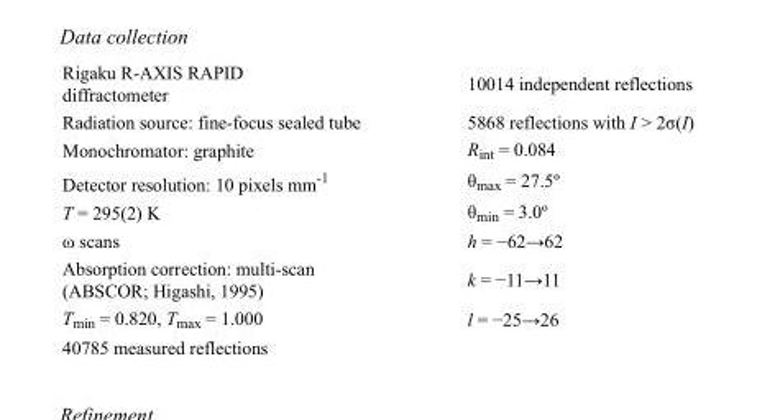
<table><tbody><tr><td>Rigaku R-AXIS RAPID diffractometer</td><td>10014 independent reflections</td></tr><tr><td>Radiation source: fine-focus sealed tube</td><td>5868 reflections with I &gt; 2σ(I)</td></tr><tr><td>Monochromator: graphite</td><td>R<sub>int</sub> = 0.084</td></tr><tr><td>Detector resolution: 10 pixels mm<sup>-1</sup></td><td>θ<sub>max</sub> = 27.5º</td></tr><tr><td>T = 295(2) K</td><td>θ<sub>min</sub> = 3.0º</td></tr><tr><td>ω scans</td><td>h = −62→62</td></tr><tr><td>Absorption correction: multi-scan (ABSCOR; Higashi, 1995)</td><td>k = −11→11</td></tr><tr><td>T<sub>min</sub> = 0.820, T<sub>max</sub> = 1.000</td><td>l = −25→26</td></tr><tr><td>40785 measured reflections</td><td></td></tr></tbody></table>